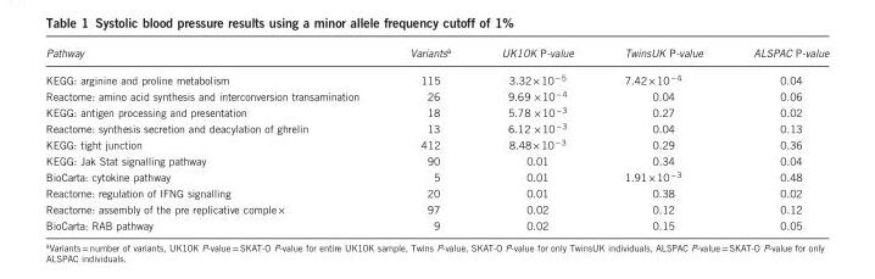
<table><thead><tr><td>Pathway</td><td>Variants<sup>a</sup></td><td>UK10K P-value</td><td>TwinsUK P-value</td><td>ALSPAC P-value</td></tr></thead><tbody><tr><td>KEGG: arginine and proline metabolism</td><td>115</td><td>3.32 × 10<sup>− 5</sup></td><td>7.42× 10<sup>− 4</sup></td><td>0.04</td></tr><tr><td>Reactome: amino acid synthesis and interconversion transamination</td><td>26</td><td>9.69 × 10<sup>− 4</sup></td><td>0.04</td><td>0.06</td></tr><tr><td>KEGG: antigen processing and presentation</td><td>18</td><td>5.78 × 10<sup>− 3</sup></td><td>0.27</td><td>0.02</td></tr><tr><td>Reactome: synthesis secretion and deacylation of ghrelin</td><td>13</td><td>6.12 × 10<sup>− 3</sup></td><td>0.04</td><td>0.13</td></tr><tr><td>KEGG: tight junction</td><td>412</td><td>8.48 × 10<sup>− 3</sup></td><td>0.29</td><td>0.36</td></tr><tr><td>KEGG: Jak Stat signalling pathway</td><td>90</td><td>0.01</td><td>0.34</td><td>0.04</td></tr><tr><td>BioCarta: cytokine pathway</td><td>5</td><td>0.01</td><td>1.91× 10<sup>− 3</sup></td><td>0.48</td></tr><tr><td>Reactome: regulation of IFNG signalling</td><td>20</td><td>0.01</td><td>0.38</td><td>0.02</td></tr><tr><td>Reactome: assembly of the pre replicative comple×</td><td>97</td><td>0.02</td><td>0.12</td><td>0.12</td></tr><tr><td>BioCarta: RAB pathway</td><td>9</td><td>0.02</td><td>0.15</td><td>0.05</td></tr></tbody></table>